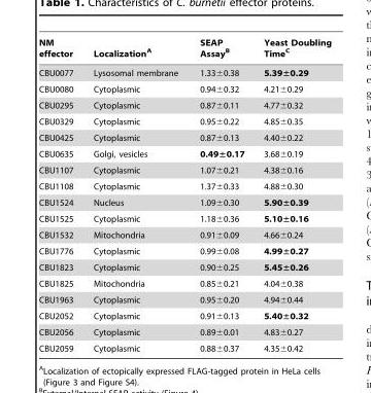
<table><thead><tr><td>NM effector</td><td>Localization<sup>A</sup></td><td>SEAP Assay<sup>B</sup></td><td>Yeast Doubling Time<sup>C</sup></td></tr></thead><tbody><tr><td>CBU0077</td><td>Lysosomal membrane</td><td>1.33±0.38</td><td>5.39±0.29</td></tr><tr><td>CBU0080</td><td>Cytoplasmic</td><td>0.94±0.32</td><td>4.21±0.29</td></tr><tr><td>CBU0295</td><td>Cytoplasmic</td><td>0.87±0.11</td><td>4.77±0.32</td></tr><tr><td>CBU0329</td><td>Cytoplasmic</td><td>0.95±0.22</td><td>4.85±0.35</td></tr><tr><td>CBU0425</td><td>Cytoplasmic</td><td>0.87±0.13</td><td>4.40±0.22</td></tr><tr><td>CBU0635</td><td>Golgi, vesicles</td><td>0.49±0.17</td><td>3.68±0.19</td></tr><tr><td>CBU1107</td><td>Cytoplasmic</td><td>1.07±0.21</td><td>4.38±0.16</td></tr><tr><td>CBU1108</td><td>Cytoplasmic</td><td>1.37±0.33</td><td>4.88±0.30</td></tr><tr><td>CBU1524</td><td>Nucleus</td><td>1.09±0.30</td><td>5.90±0.39</td></tr><tr><td>CBU1525</td><td>Cytoplasmic</td><td>1.18±0.36</td><td>5.10±0.16</td></tr><tr><td>CBU1532</td><td>Mitochondria</td><td>0.91±0.09</td><td>4.66±0.24</td></tr><tr><td>CBU1776</td><td>Cytoplasmic</td><td>0.99±0.08</td><td>4.99±0.27</td></tr><tr><td>CBU1823</td><td>Cytoplasmic</td><td>0.90±0.25</td><td>5.45±0.26</td></tr><tr><td>CBU1825</td><td>Mitochondria</td><td>0.85±0.21</td><td>4.04±0.38</td></tr><tr><td>CBU1963</td><td>Cytoplasmic</td><td>0.95±0.20</td><td>4.94±0.44</td></tr><tr><td>CBU2052</td><td>Cytoplasmic</td><td>0.91±0.13</td><td>5.40±0.32</td></tr><tr><td>CBU2056</td><td>Cytoplasmic</td><td>0.89±0.01</td><td>4.83±0.27</td></tr><tr><td>CBU2059</td><td>Cytoplasmic</td><td>0.88±0.37</td><td>4.35±0.42</td></tr></tbody></table>